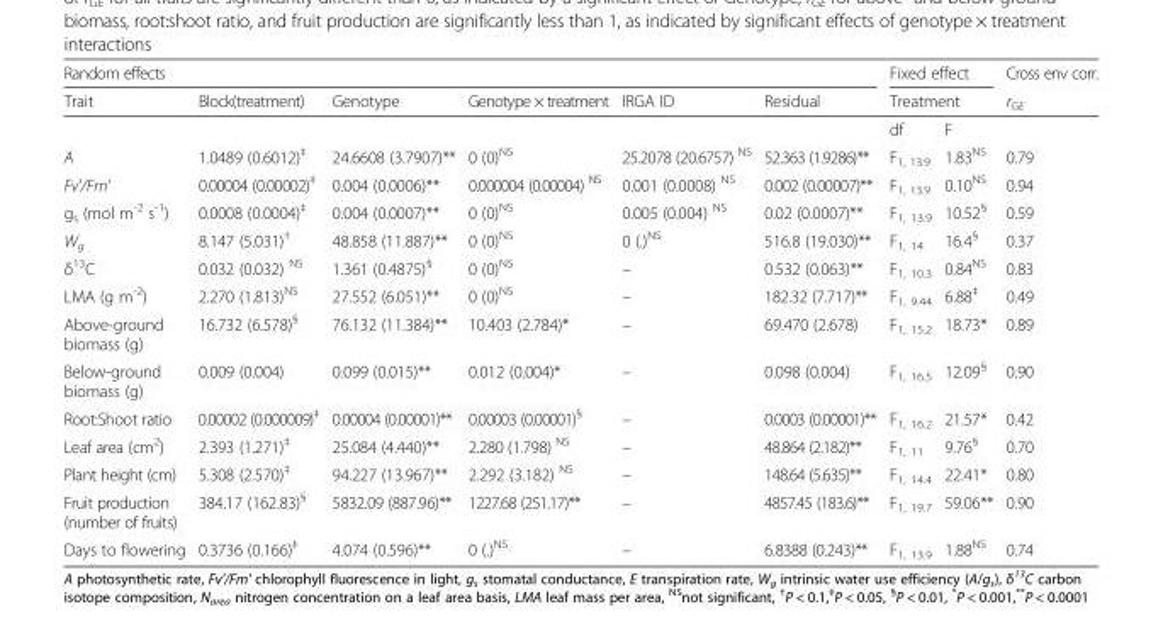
<table><thead><tr><td colspan="6">Random effects</td><td rowspan="2" colspan="2">Fixed effect Treatment</td><td rowspan="3">Cross env corr. r<sub>GE</sub></td></tr><tr><td rowspan="2">Trait</td><td rowspan="2">Block(treatment)</td><td rowspan="2">Genotype</td><td rowspan="2">Genotype × treatment</td><td rowspan="2">IRGA ID</td><td rowspan="2">Residual</td></tr><tr><td>df</td><td>F</td></tr></thead><tbody><tr><td>A</td><td>1.0489 (0.6012)<sup>‡</sup></td><td>24.6608 (3.7907)**</td><td>0 (0)<sup>NS</sup></td><td>25.2078 (20.6757) <sup>NS</sup></td><td>52.363 (1.9286)**</td><td>F<sub>1, 13.9</sub></td><td>1.83<sup>NS</sup></td><td>0.79</td></tr><tr><td>Fv&#x27;/Fm&#x27;</td><td>0.00004 (0.00002)<sup>‡</sup></td><td>0.004 (0.0006)**</td><td>0.000004 (0.00004) <sup>NS</sup></td><td>0.001 (0.0008) <sup>NS</sup></td><td>0.002 (0.00007)**</td><td>F<sub>1, 13.9</sub></td><td>0.10<sup>NS</sup></td><td>0.94</td></tr><tr><td>g<sub>s</sub> (mol m<sup>-2</sup> s<sup>-1</sup>)</td><td>0.0008 (0.0004)<sup>‡</sup></td><td>0.004 (0.0007)**</td><td>0 (0)<sup>NS</sup></td><td>0.005 (0.004) <sup>NS</sup></td><td>0.02 (0.0007)**</td><td>F<sub>1, 13.9</sub></td><td>10.52<sup>§</sup></td><td>0.59</td></tr><tr><td>W<sub>g</sub></td><td>8.147 (5.031)<sup>†</sup></td><td>48.858 (11.887)**</td><td>0 (0)<sup>NS</sup></td><td>0 (.)<sup>NS</sup></td><td>516.8 (19.030)**</td><td>F<sub>1, 14</sub></td><td>16.4<sup>§</sup></td><td>0.37</td></tr><tr><td>δ<sup>13</sup>C</td><td>0.032 (0.032) <sup>NS</sup></td><td>1.361 (0.4875)<sup>§</sup></td><td>0 (0)<sup>NS</sup></td><td>–</td><td>0.532 (0.063)**</td><td>F<sub>1, 10.3</sub></td><td>0.84<sup>NS</sup></td><td>0.83</td></tr><tr><td>LMA (g m<sup>-2</sup>)</td><td>2.270 (1.813)<sup>NS</sup></td><td>27.552 (6.051)**</td><td>0 (0)<sup>NS</sup></td><td>–</td><td>182.32 (7.717)**</td><td>F<sub>1, 9.44</sub></td><td>6.88<sup>‡</sup></td><td>0.49</td></tr><tr><td>Above-ground biomass (g)</td><td>16.732 (6.578)<sup>§</sup></td><td>76.132 (11.384)**</td><td>10.403 (2.784)*</td><td>–</td><td>69.470 (2.678)</td><td>F<sub>1, 15.2</sub></td><td>18.73*</td><td>0.89</td></tr><tr><td>Below-ground biomass (g)</td><td>0.009 (0.004)</td><td>0.099 (0.015)**</td><td>0.012 (0.004)*</td><td>–</td><td>0.098 (0.004)</td><td>F<sub>1, 16.5</sub></td><td>12.09<sup>§</sup></td><td>0.90</td></tr><tr><td>Root:Shoot ratio</td><td>0.00002 (0.000009)<sup>‡</sup></td><td>0.00004 (0.00001)**</td><td>0.00003 (0.00001)<sup>§</sup></td><td>–</td><td>0.0003 (0.00001)**</td><td>F<sub>1, 16.2</sub></td><td>21.57*</td><td>0.42</td></tr><tr><td>Leaf area (cm<sup>2</sup>)</td><td>2.393 (1.271)<sup>‡</sup></td><td>25.084 (4.440)**</td><td>2.280 (1.798) <sup>NS</sup></td><td>–</td><td>48.864 (2.182)**</td><td>F<sub>1, 11</sub></td><td>9.76<sup>§</sup></td><td>0.70</td></tr><tr><td>Plant height (cm)</td><td>5.308 (2.570)<sup>‡</sup></td><td>94.227 (13.967)**</td><td>2.292 (3.182) <sup>NS</sup></td><td>–</td><td>148.64 (5.635)**</td><td>F<sub>1, 14.4</sub></td><td>22.41*</td><td>0.80</td></tr><tr><td>Fruit production (number of fruits)</td><td>384.17 (162.83)<sup>§</sup></td><td>5832.09 (887.96)**</td><td>1227.68 (251.17)**</td><td>–</td><td>4857.45 (183.6)**</td><td>F<sub>1, 19.7</sub></td><td>59.06**</td><td>0.90</td></tr><tr><td>Days to flowering</td><td>0.3736 (0.166)<sup>‡</sup></td><td>4.074 (0.596)**</td><td>0 (.)<sup>NS</sup></td><td>–</td><td>6.8388 (0.243)**</td><td>F<sub>1, 13.9</sub></td><td>1.88<sup>NS</sup></td><td>0.74</td></tr></tbody></table>